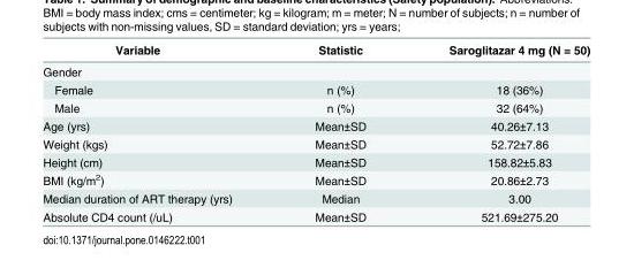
<table><thead><tr><td>Variable</td><td>Statistic</td><td>Saroglitazar 4 mg (N = 50)</td></tr></thead><tbody><tr><td colspan="3">Gender</td></tr><tr><td>Female</td><td>n (%)</td><td>18 (36%)</td></tr><tr><td>Male</td><td>n (%)</td><td>32 (64%)</td></tr><tr><td>Age (yrs)</td><td>Mean±SD</td><td>40.26±7.13</td></tr><tr><td>Weight (kgs)</td><td>Mean±SD</td><td>52.72±7.86</td></tr><tr><td>Height (cm)</td><td>Mean±SD</td><td>158.82±5.83</td></tr><tr><td>BMI (kg/m<sup>2</sup>)</td><td>Mean±SD</td><td>20.86±2.73</td></tr><tr><td>Median duration of ART therapy (yrs)</td><td>Median</td><td>3.00</td></tr><tr><td>Absolute CD4 count (/uL)</td><td>Mean±SD</td><td>521.69±275.20</td></tr></tbody></table>